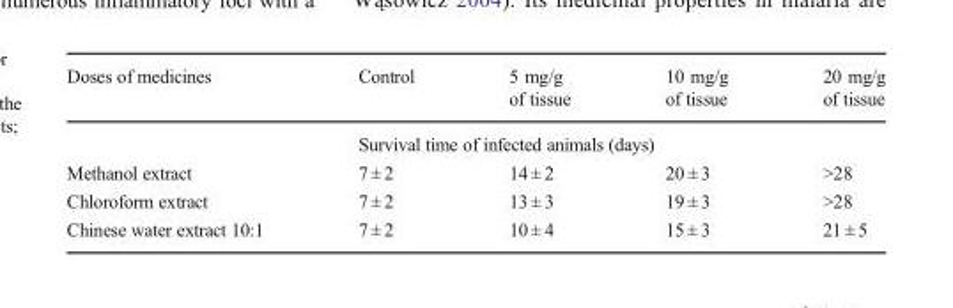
<table><thead><tr><td>Doses of medicines</td><td>Control</td><td>5 mg/g of tissue</td><td>10 mg/g of tissue</td><td>20 mg/g of tissue</td></tr></thead><tbody><tr><td></td><td colspan="4">Survival time of infected animals (days)</td></tr><tr><td>Methanol extract</td><td>7 ± 2</td><td>14 ± 2</td><td>20 ± 3</td><td>&gt;28</td></tr><tr><td>Chloroform extract</td><td>7 ± 2</td><td>13 ± 3</td><td>19 ± 3</td><td>&gt;28</td></tr><tr><td>Chinese water extract 10:1</td><td>7 ± 2</td><td>10 ± 4</td><td>15 ± 3</td><td>21 ± 5</td></tr></tbody></table>